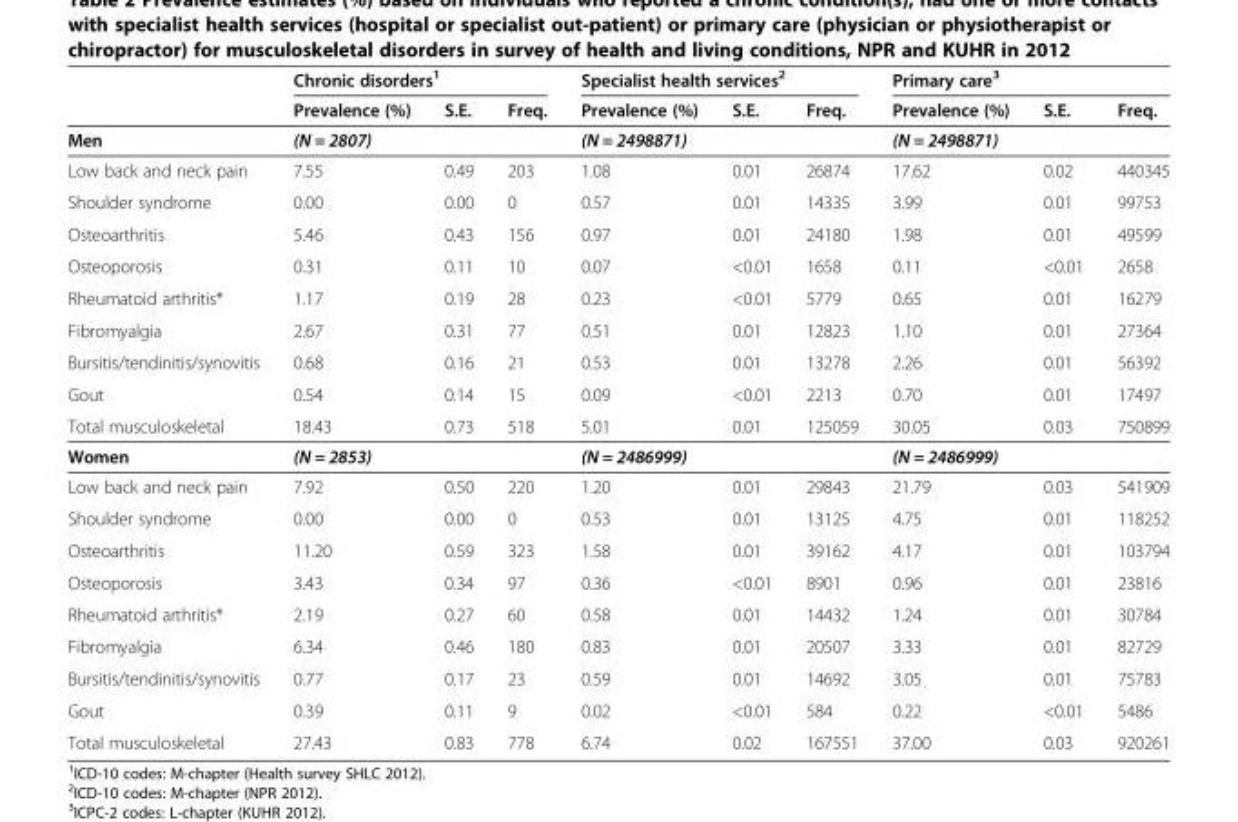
<table><thead><tr><td rowspan="2"></td><td colspan="3">Chronic disorders<sup>1</sup></td><td colspan="3">Specialist health services<sup>2</sup></td><td colspan="3">Primary care<sup>3</sup></td></tr><tr><td>Prevalence (%)</td><td>S.E.</td><td>Freq.</td><td>Prevalence (%)</td><td>S.E.</td><td>Freq.</td><td>Prevalence (%)</td><td>S.E.</td><td>Freq.</td></tr></thead><tbody><tr><td>Men</td><td colspan="3">(N = 2807)</td><td colspan="3">(N = 2498871)</td><td colspan="3">(N = 2498871)</td></tr><tr><td>Low back and neck pain</td><td>7.55</td><td>0.49</td><td>203</td><td>1.08</td><td>0.01</td><td>26874</td><td>17.62</td><td>0.02</td><td>440345</td></tr><tr><td>Shoulder syndrome</td><td>0.00</td><td>0.00</td><td>0</td><td>0.57</td><td>0.01</td><td>14335</td><td>3.99</td><td>0.01</td><td>99753</td></tr><tr><td>Osteoarthritis</td><td>5.46</td><td>0.43</td><td>156</td><td>0.97</td><td>0.01</td><td>24180</td><td>1.98</td><td>0.01</td><td>49599</td></tr><tr><td>Osteoporosis</td><td>0.31</td><td>0.11</td><td>10</td><td>0.07</td><td>&lt;0.01</td><td>1658</td><td>0.11</td><td>&lt;0.01</td><td>2658</td></tr><tr><td>Rheumatoid arthritis*</td><td>1.17</td><td>0.19</td><td>28</td><td>0.23</td><td>&lt;0.01</td><td>5779</td><td>0.65</td><td>0.01</td><td>16279</td></tr><tr><td>Fibromyalgia</td><td>2.67</td><td>0.31</td><td>77</td><td>0.51</td><td>0.01</td><td>12823</td><td>1.10</td><td>0.01</td><td>27364</td></tr><tr><td>Bursitis/tendinitis/synovitis</td><td>0.68</td><td>0.16</td><td>21</td><td>0.53</td><td>0.01</td><td>13278</td><td>2.26</td><td>0.01</td><td>56392</td></tr><tr><td>Gout</td><td>0.54</td><td>0.14</td><td>15</td><td>0.09</td><td>&lt;0.01</td><td>2213</td><td>0.70</td><td>0.01</td><td>17497</td></tr><tr><td>Total musculoskeletal</td><td>18.43</td><td>0.73</td><td>518</td><td>5.01</td><td>0.01</td><td>125059</td><td>30.05</td><td>0.03</td><td>750899</td></tr><tr><td>Women</td><td colspan="3">(N = 2853)</td><td colspan="3">(N = 2486999)</td><td colspan="3">(N = 2486999)</td></tr><tr><td>Low back and neck pain</td><td>7.92</td><td>0.50</td><td>220</td><td>1.20</td><td>0.01</td><td>29843</td><td>21.79</td><td>0.03</td><td>541909</td></tr><tr><td>Shoulder syndrome</td><td>0.00</td><td>0.00</td><td>0</td><td>0.53</td><td>0.01</td><td>13125</td><td>4.75</td><td>0.01</td><td>118252</td></tr><tr><td>Osteoarthritis</td><td>11.20</td><td>0.59</td><td>323</td><td>1.58</td><td>0.01</td><td>39162</td><td>4.17</td><td>0.01</td><td>103794</td></tr><tr><td>Osteoporosis</td><td>3.43</td><td>0.34</td><td>97</td><td>0.36</td><td>&lt;0.01</td><td>8901</td><td>0.96</td><td>0.01</td><td>23816</td></tr><tr><td>Rheumatoid arthritis*</td><td>2.19</td><td>0.27</td><td>60</td><td>0.58</td><td>0.01</td><td>14432</td><td>1.24</td><td>0.01</td><td>30784</td></tr><tr><td>Fibromyalgia</td><td>6.34</td><td>0.46</td><td>180</td><td>0.83</td><td>0.01</td><td>20507</td><td>3.33</td><td>0.01</td><td>82729</td></tr><tr><td>Bursitis/tendinitis/synovitis</td><td>0.77</td><td>0.17</td><td>23</td><td>0.59</td><td>0.01</td><td>14692</td><td>3.05</td><td>0.01</td><td>75783</td></tr><tr><td>Gout</td><td>0.39</td><td>0.11</td><td>9</td><td>0.02</td><td>&lt;0.01</td><td>584</td><td>0.22</td><td>&lt;0.01</td><td>5486</td></tr><tr><td>Total musculoskeletal</td><td>27.43</td><td>0.83</td><td>778</td><td>6.74</td><td>0.02</td><td>167551</td><td>37.00</td><td>0.03</td><td>920261</td></tr></tbody></table>